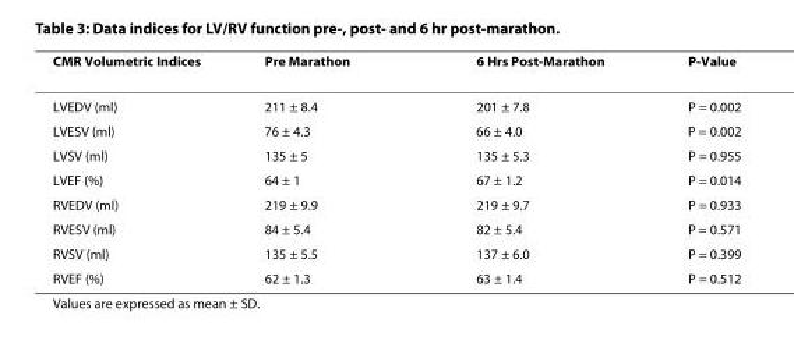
<table><thead><tr><td>CMR Volumetric Indices</td><td>Pre Marathon</td><td>6 Hrs Post-Marathon</td><td>P-Value</td></tr></thead><tbody><tr><td>LVEDV (ml)</td><td>211 ± 8.4</td><td>201 ± 7.8</td><td>P = 0.002</td></tr><tr><td>LVESV (ml)</td><td>76 ± 4.3</td><td>66 ± 4.0</td><td>P = 0.002</td></tr><tr><td>LVSV (ml)</td><td>135 ± 5</td><td>135 ± 5.3</td><td>P = 0.955</td></tr><tr><td>LVEF (%)</td><td>64 ± 1</td><td>67 ± 1.2</td><td>P = 0.014</td></tr><tr><td>RVEDV (ml)</td><td>219 ± 9.9</td><td>219 ± 9.7</td><td>P = 0.933</td></tr><tr><td>RVESV (ml)</td><td>84 ± 5.4</td><td>82 ± 5.4</td><td>P = 0.571</td></tr><tr><td>RVSV (ml)</td><td>135 ± 5.5</td><td>137 ± 6.0</td><td>P = 0.399</td></tr><tr><td>RVEF (%)</td><td>62 ± 1.3</td><td>63 ± 1.4</td><td>P = 0.512</td></tr></tbody></table>